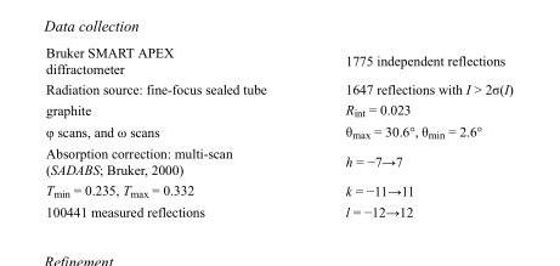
<table><tbody><tr><td>Bruker SMART APEX diffractometer</td><td>1775 independent reflections</td></tr><tr><td>Radiation source: fine-focus sealed tube</td><td>1647 reflections with I &gt; 2σ(I)</td></tr><tr><td>graphite</td><td>R<sub>int</sub> = 0.023</td></tr><tr><td>φ scans, and ω scans</td><td>θ<sub>max</sub> = 30.6°, θ<sub>min</sub> = 2.6°</td></tr><tr><td>Absorption correction: multi-scan (SADABS; Bruker, 2000)</td><td>h = −7→7</td></tr><tr><td>T<sub>min</sub> = 0.235, T<sub>max</sub> = 0.332</td><td>k = −11→11</td></tr><tr><td>100441 measured reflections</td><td>l = −12→12</td></tr></tbody></table>